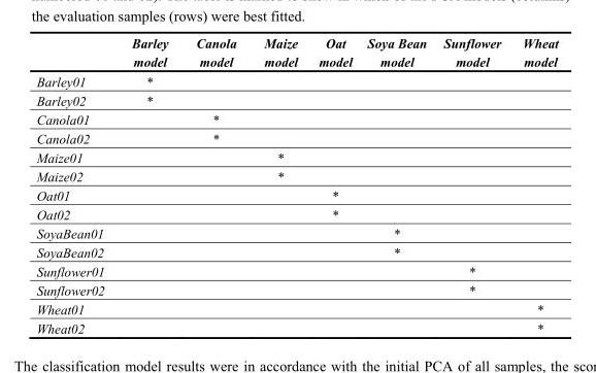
<table><thead><tr><td></td><td>Barley model</td><td>Canola model</td><td>Maize model</td><td>Oat model</td><td>Soya Bean model</td><td>Sunflower model</td><td>Wheat model</td></tr></thead><tbody><tr><td>Barley01</td><td>*</td><td></td><td></td><td></td><td></td><td></td><td></td></tr><tr><td>Barley02</td><td>*</td><td></td><td></td><td></td><td></td><td></td><td></td></tr><tr><td>Canola01</td><td></td><td>*</td><td></td><td></td><td></td><td></td><td></td></tr><tr><td>Canola02</td><td></td><td>*</td><td></td><td></td><td></td><td></td><td></td></tr><tr><td>Maize01</td><td></td><td></td><td>*</td><td></td><td></td><td></td><td></td></tr><tr><td>Maize02</td><td></td><td></td><td>*</td><td></td><td></td><td></td><td></td></tr><tr><td>Oat01</td><td></td><td></td><td></td><td>*</td><td></td><td></td><td></td></tr><tr><td>Oat02</td><td></td><td></td><td></td><td>*</td><td></td><td></td><td></td></tr><tr><td>SoyaBean01</td><td></td><td></td><td></td><td></td><td>*</td><td></td><td></td></tr><tr><td>SoyaBean02</td><td></td><td></td><td></td><td></td><td>*</td><td></td><td></td></tr><tr><td>Sunflower01</td><td></td><td></td><td></td><td></td><td></td><td>*</td><td></td></tr><tr><td>Sunflower02</td><td></td><td></td><td></td><td></td><td></td><td>*</td><td></td></tr><tr><td>Wheat01</td><td></td><td></td><td></td><td></td><td></td><td></td><td>*</td></tr><tr><td>Wheat02</td><td></td><td></td><td></td><td></td><td></td><td></td><td>*</td></tr></tbody></table>